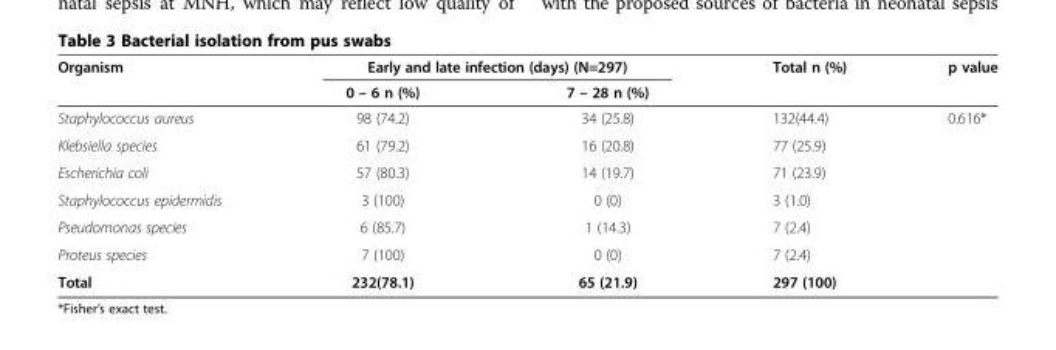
<table><thead><tr><td rowspan="2">Organism</td><td colspan="2">Early and late infection (days) (N=297)</td><td rowspan="2">Total n (%)</td><td rowspan="2">p value</td></tr><tr><td>0 – 6 n (%)</td><td>7 – 28 n (%)</td></tr></thead><tbody><tr><td>Staphylococcus aureus</td><td>98 (74.2)</td><td>34 (25.8)</td><td>132(44.4)</td><td>0.616*</td></tr><tr><td>Klebsiella species</td><td>61 (79.2)</td><td>16 (20.8)</td><td>77 (25.9)</td><td></td></tr><tr><td>Escherichia coli</td><td>57 (80.3)</td><td>14 (19.7)</td><td>71 (23.9)</td><td></td></tr><tr><td>Staphylococcus epidermidis</td><td>3 (100)</td><td>0 (0)</td><td>3 (1.0)</td><td></td></tr><tr><td>Pseudomonas species</td><td>6 (85.7)</td><td>1 (14.3)</td><td>7 (2.4)</td><td></td></tr><tr><td>Proteus species</td><td>7 (100)</td><td>0 (0)</td><td>7 (2.4)</td><td></td></tr><tr><td>Total</td><td>232(78.1)</td><td>65 (21.9)</td><td>297 (100)</td><td></td></tr></tbody></table>